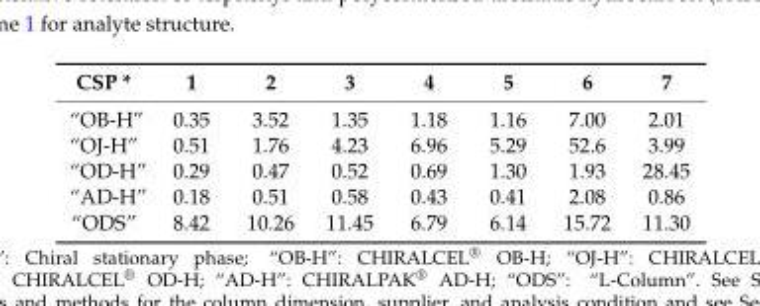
<table><thead><tr><td>CSP *</td><td>1</td><td>2</td><td>3</td><td>4</td><td>5</td><td>6</td><td>7</td></tr></thead><tbody><tr><td>“OB-H”</td><td>0.35</td><td>3.52</td><td>1.35</td><td>1.18</td><td>1.16</td><td>7.00</td><td>2.01</td></tr><tr><td>“OJ-H”</td><td>0.51</td><td>1.76</td><td>4.23</td><td>6.96</td><td>5.29</td><td>52.6</td><td>3.99</td></tr><tr><td>“OD-H”</td><td>0.29</td><td>0.47</td><td>0.52</td><td>0.69</td><td>1.30</td><td>1.93</td><td>28.45</td></tr><tr><td>“AD-H”</td><td>0.18</td><td>0.51</td><td>0.58</td><td>0.43</td><td>0.41</td><td>2.08</td><td>0.86</td></tr><tr><td>“ODS”</td><td>8.42</td><td>10.26</td><td>11.45</td><td>6.79</td><td>6.14</td><td>15.72</td><td>11.30</td></tr></tbody></table>